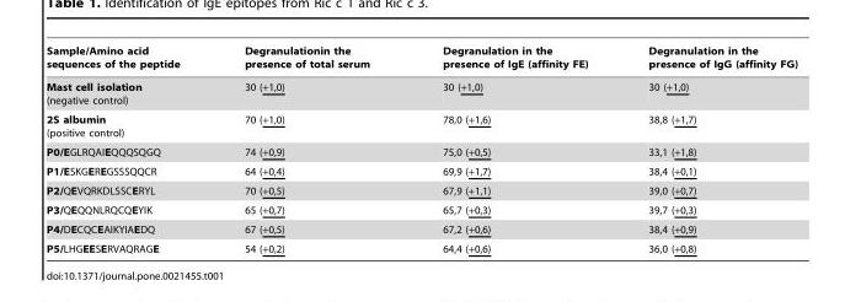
<table><thead><tr><td>Sample/Amino acid sequences of the peptide</td><td>Degranulationin the presence of total serum</td><td>Degranulation in the presence of IgE (affinity FE)</td><td>Degranulation in the presence of IgG (affinity FG)</td></tr></thead><tbody><tr><td>Mast cell isolation (negative control)</td><td>30 (+1,0)</td><td>30 (+1,0)</td><td>30 (+1,0)</td></tr><tr><td>2S albumin (positive control)</td><td>70 (+1,0)</td><td>78,0 (+1,6)</td><td>38,8 (+1,7)</td></tr><tr><td>P0/EGLRQAIEQQQSQGQ</td><td>74 (+0,9)</td><td>75,0 (+0,5)</td><td>33,1 (+1,8)</td></tr><tr><td>P1/ESKGEREGSSSQQCR</td><td>64 (+0,4)</td><td>69,9 (+1,7)</td><td>38,4 (+0,1)</td></tr><tr><td>P2/QEVQRKDLSSCERYL</td><td>70 (+0,5)</td><td>67,9 (+1,1)</td><td>39,0 (+0,7)</td></tr><tr><td>P3/QEQQNLRQCQEYIK</td><td>65 (+0,7)</td><td>65,7 (+0,3)</td><td>39,7 (+0,3)</td></tr><tr><td>P4/DECQCEAIKYIAEDQ</td><td>67 (+0,5)</td><td>67,2 (+0,6)</td><td>38,4 (+0,9)</td></tr><tr><td>P5/LHGEESERVAQRAGE</td><td>54 (+0,2)</td><td>64,4 (+0,6)</td><td>36,0 (+0,8)</td></tr></tbody></table>